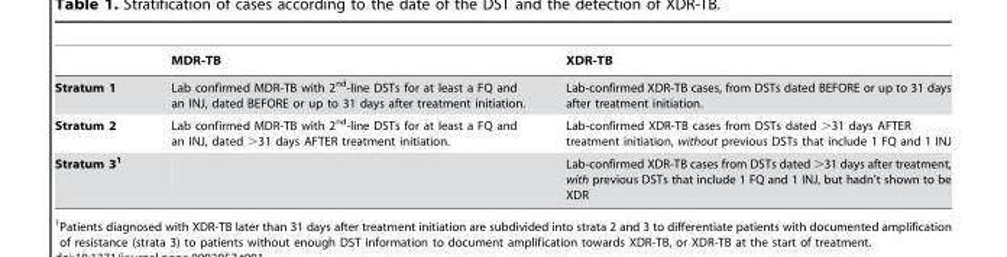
<table><thead><tr><td></td><td>MDR-TB</td><td>XDR-TB</td></tr></thead><tbody><tr><td>Stratum 1</td><td>Lab confirmed MDR-TB with 2<sup>nd</sup>-line DSTs for at least a FQ and an INJ, dated BEFORE or up to 31 days after treatment initiation.</td><td>Lab-confirmed XDR-TB cases, from DSTs dated BEFORE or up to 31 days after treatment initiation.</td></tr><tr><td>Stratum 2</td><td>Lab confirmed MDR-TB with 2<sup>nd</sup>-line DSTs for at least a FQ and an INJ, dated &gt;31 days AFTER treatment initiation.</td><td>Lab-confirmed XDR-TB cases from DSTs dated &gt;31 days AFTER treatment initiation, without previous DSTs that include 1 FQ and 1 INJ</td></tr><tr><td>Stratum 31</td><td></td><td>Lab-confirmed XDR-TB cases from DSTs dated &gt;31 days after treatment, with previous DSTs that include 1 FQ and 1 INJ, but hadn’t shown to be XDR</td></tr></tbody></table>